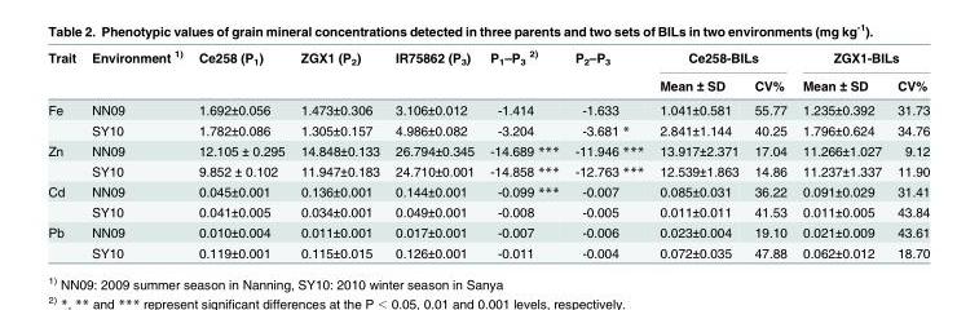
<table><thead><tr><td rowspan="2">Trait</td><td rowspan="2">Environment <sup>1)</sup></td><td rowspan="2">Ce258 (P<sub>1</sub>)</td><td rowspan="2">ZGX1 (P<sub>2</sub>)</td><td rowspan="2">IR75862 (P<sub>3</sub>)</td><td rowspan="2">P<sub>1</sub>–P<sub>3</sub> <sup>2)</sup></td><td rowspan="2">P<sub>2</sub>–P<sub>3</sub></td><td colspan="2">Ce258-BILs</td><td colspan="2">ZGX1-BILs</td></tr><tr><td>Mean ± SD</td><td>CV%</td><td>Mean ± SD</td><td>CV%</td></tr></thead><tbody><tr><td rowspan="2">Fe</td><td>NN09</td><td>1.692±0.056</td><td>1.473±0.306</td><td>3.106±0.012</td><td>-1.414</td><td>-1.633</td><td>1.041±0.581</td><td>55.77</td><td>1.235±0.392</td><td>31.73</td></tr><tr><td>SY10</td><td>1.782±0.086</td><td>1.305±0.157</td><td>4.986±0.082</td><td>-3.204</td><td>-3.681 *</td><td>2.841±1.144</td><td>40.25</td><td>1.796±0.624</td><td>34.76</td></tr><tr><td rowspan="2">Zn</td><td>NN09</td><td>12.105 ± 0.295</td><td>14.848±0.133</td><td>26.794±0.345</td><td>-14.689 ***</td><td>-11.946 ***</td><td>13.917±2.371</td><td>17.04</td><td>11.266±1.027</td><td>9.12</td></tr><tr><td>SY10</td><td>9.852 ± 0.102</td><td>11.947±0.183</td><td>24.710±0.001</td><td>-14.858 ***</td><td>-12.763 ***</td><td>12.539±1.863</td><td>14.86</td><td>11.237±1.337</td><td>11.90</td></tr><tr><td rowspan="2">Cd</td><td>NN09</td><td>0.045±0.001</td><td>0.136±0.001</td><td>0.144±0.001</td><td>-0.099 ***</td><td>-0.007</td><td>0.085±0.031</td><td>36.22</td><td>0.091±0.029</td><td>31.41</td></tr><tr><td>SY10</td><td>0.041±0.005</td><td>0.034±0.001</td><td>0.049±0.001</td><td>-0.008</td><td>-0.005</td><td>0.011±0.011</td><td>41.53</td><td>0.011±0.005</td><td>43.84</td></tr><tr><td rowspan="2">Pb</td><td>NN09</td><td>0.010±0.004</td><td>0.011±0.001</td><td>0.017±0.001</td><td>-0.007</td><td>-0.006</td><td>0.023±0.004</td><td>19.10</td><td>0.021±0.009</td><td>43.61</td></tr><tr><td>SY10</td><td>0.119±0.001</td><td>0.115±0.015</td><td>0.126±0.001</td><td>-0.011</td><td>-0.004</td><td>0.072±0.035</td><td>47.88</td><td>0.062±0.012</td><td>18.70</td></tr></tbody></table>